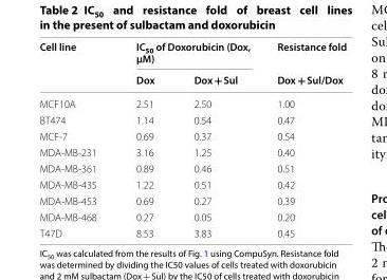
<table><thead><tr><td rowspan="2">Cell line</td><td colspan="2">IC<sub>50</sub> of Doxorubicin (Dox, μM)</td><td rowspan="2">Resistance fold Dox + Sul/Dox</td></tr><tr><td>Dox</td><td>Dox + Sul</td></tr></thead><tbody><tr><td>MCF10A</td><td>2.51</td><td>2.50</td><td>1.00</td></tr><tr><td>BT474</td><td>1.14</td><td>0.54</td><td>0.47</td></tr><tr><td>MCF‑7</td><td>0.69</td><td>0.37</td><td>0.54</td></tr><tr><td>MDA‑MB‑231</td><td>3.16</td><td>1.25</td><td>0.40</td></tr><tr><td>MDA‑MB‑361</td><td>0.89</td><td>0.46</td><td>0.51</td></tr><tr><td>MDA‑MB‑435</td><td>1.22</td><td>0.51</td><td>0.42</td></tr><tr><td>MDA‑MB‑453</td><td>0.69</td><td>0.27</td><td>0.39</td></tr><tr><td>MDA‑MB‑468</td><td>0.27</td><td>0.05</td><td>0.20</td></tr><tr><td>T47D</td><td>8.53</td><td>3.83</td><td>0.45</td></tr></tbody></table>